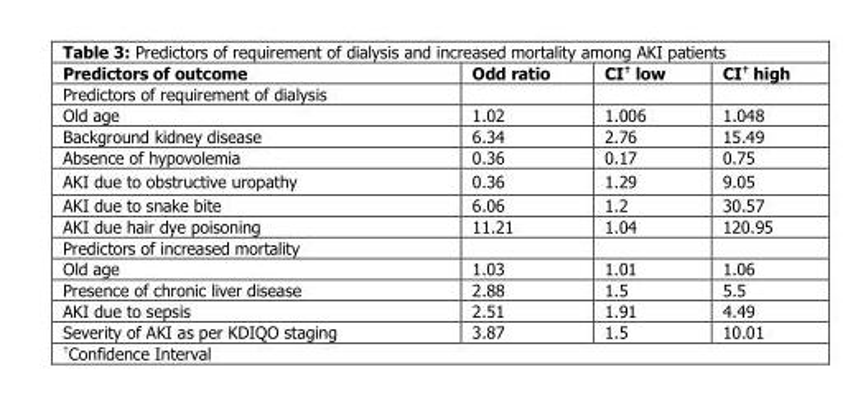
<table><thead><tr><td>Predictors of outcome</td><td>Odd ratio</td><td>CI<sup>†</sup> low</td><td>CI<sup>†</sup> high</td></tr></thead><tbody><tr><td colspan="4">Predictors of requirement of dialysis</td></tr><tr><td>Old age</td><td>1.02</td><td>1.006</td><td>1.048</td></tr><tr><td>Background kidney disease</td><td>6.34</td><td>2.76</td><td>15.49</td></tr><tr><td>Absence of hypovolemia</td><td>0.36</td><td>0.17</td><td>0.75</td></tr><tr><td>AKI due to obstructive uropathy</td><td>0.36</td><td>1.29</td><td>9.05</td></tr><tr><td>AKI due to snake bite</td><td>6.06</td><td>1.2</td><td>30.57</td></tr><tr><td>AKI due hair dye poisoning</td><td>11.21</td><td>1.04</td><td>120.95</td></tr><tr><td colspan="4">Predictors of increased mortality</td></tr><tr><td>Old age</td><td>1.03</td><td>1.01</td><td>1.06</td></tr><tr><td>Presence of chronic liver disease</td><td>2.88</td><td>1.5</td><td>5.5</td></tr><tr><td>AKI due to sepsis</td><td>2.51</td><td>1.91</td><td>4.49</td></tr><tr><td>Severity of AKI as per KDIQO staging</td><td>3.87</td><td>1.5</td><td>10.01</td></tr></tbody></table>